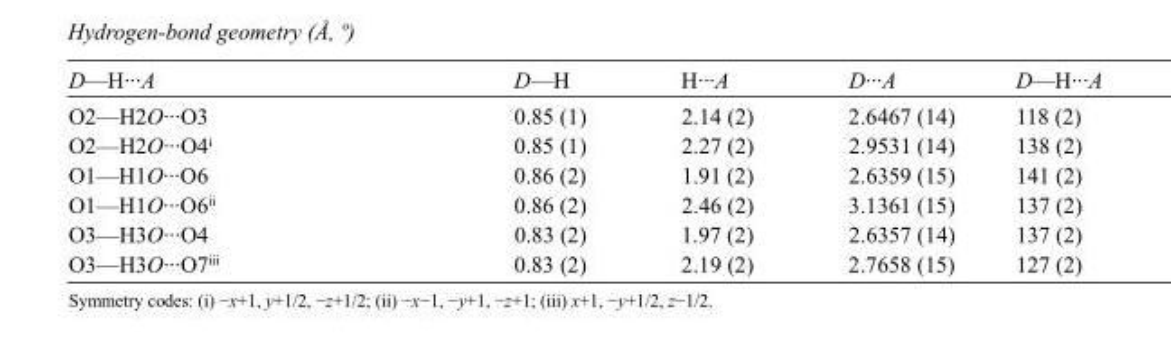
<table><tbody><tr><td>D—H···A</td><td>D—H</td><td>H···A</td><td>D···A</td><td>D—H···A</td></tr><tr><td>O2—H2O···O3</td><td>0.85 (1)</td><td>2.14 (2)</td><td>2.6467 (14)</td><td>118 (2)</td></tr><tr><td>O2—H2O···O4<sup>i</sup></td><td>0.85 (1)</td><td>2.27 (2)</td><td>2.9531 (14)</td><td>138 (2)</td></tr><tr><td>O1—H1O···O6</td><td>0.86 (2)</td><td>1.91 (2)</td><td>2.6359 (15)</td><td>141 (2)</td></tr><tr><td>O1—H1O···O6<sup>ii</sup></td><td>0.86 (2)</td><td>2.46 (2)</td><td>3.1361 (15)</td><td>137 (2)</td></tr><tr><td>O3—H3O···O4</td><td>0.83 (2)</td><td>1.97 (2)</td><td>2.6357 (14)</td><td>137 (2)</td></tr><tr><td>O3—H3O···O7<sup>iii</sup></td><td>0.83 (2)</td><td>2.19 (2)</td><td>2.7658 (15)</td><td>127 (2)</td></tr></tbody></table>